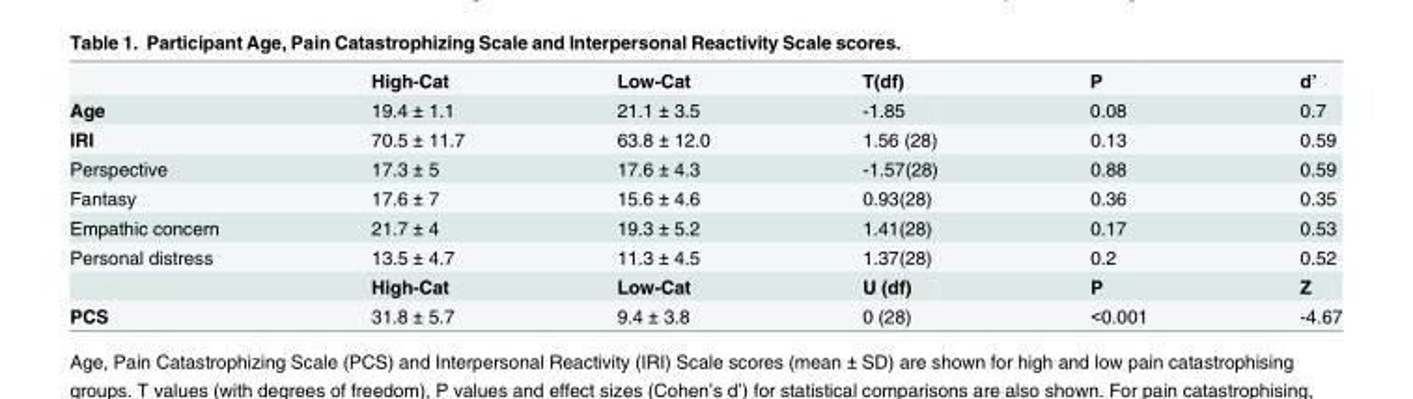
<table><thead><tr><td></td><td>High-Cat</td><td>Low-Cat</td><td>T(df)</td><td>P</td><td>d’</td></tr></thead><tbody><tr><td>Age</td><td>19.4 ± 1.1</td><td>21.1 ± 3.5</td><td>-1.85</td><td>0.08</td><td>0.7</td></tr><tr><td>IRI</td><td>70.5 ± 11.7</td><td>63.8 ± 12.0</td><td>1.56 (28)</td><td>0.13</td><td>0.59</td></tr><tr><td>Perspective</td><td>17.3 ± 5</td><td>17.6 ± 4.3</td><td>-1.57(28)</td><td>0.88</td><td>0.59</td></tr><tr><td>Fantasy</td><td>17.6 ± 7</td><td>15.6 ± 4.6</td><td>0.93(28)</td><td>0.36</td><td>0.35</td></tr><tr><td>Empathic concern</td><td>21.7 ± 4</td><td>19.3 ± 5.2</td><td>1.41(28)</td><td>0.17</td><td>0.53</td></tr><tr><td rowspan="2">Personal distress</td><td>13.5 ± 4.7</td><td>11.3 ± 4.5</td><td>1.37(28)</td><td>0.2</td><td>0.52</td></tr><tr><td>High-Cat</td><td>Low-Cat</td><td>U (df)</td><td>P</td><td>Z</td></tr><tr><td>PCS</td><td>31.8 ± 5.7</td><td>9.4 ± 3.8</td><td>0 (28)</td><td>&lt;0.001</td><td>-4.67</td></tr></tbody></table>